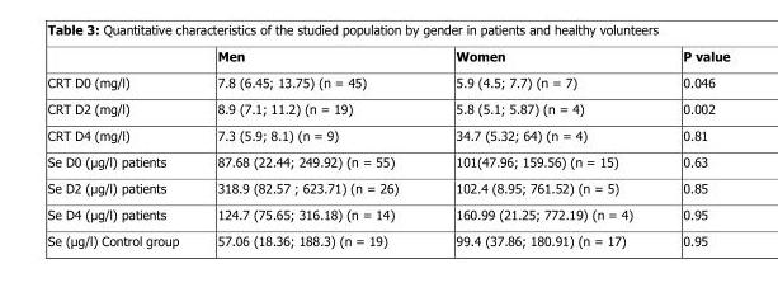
<table><thead><tr><td></td><td>Men</td><td>Women</td><td>P value</td></tr></thead><tbody><tr><td>CRT D0 (mg/l)</td><td>7.8 (6.45; 13.75) (n = 45)</td><td>5.9 (4.5; 7.7) (n = 7)</td><td>0.046</td></tr><tr><td>CRT D2 (mg/l)</td><td>8.9 (7.1; 11.2) (n = 19)</td><td>5.8 (5.1; 5.87) (n = 4)</td><td>0.002</td></tr><tr><td>CRT D4 (mg/l)</td><td>7.3 (5.9; 8.1) (n = 9)</td><td>34.7 (5.32; 64) (n = 4)</td><td>0.81</td></tr><tr><td>Se D0 (µg/l) patients</td><td>87.68 (22.44; 249.92) (n = 55)</td><td>101(47.96; 159.56) (n = 15)</td><td>0.63</td></tr><tr><td>Se D2 (µg/l) patients</td><td>318.9 (82.57 ; 623.71) (n = 26)</td><td>102.4 (8.95; 761.52) (n = 5)</td><td>0.85</td></tr><tr><td>Se D4 (µg/l) patients</td><td>124.7 (75.65; 316.18) (n = 14)</td><td>160.99 (21.25; 772.19) (n = 4)</td><td>0.95</td></tr><tr><td>Se (µg/l) Control group</td><td>57.06 (18.36; 188.3) (n = 19)</td><td>99.4 (37.86; 180.91) (n = 17)</td><td>0.95</td></tr></tbody></table>